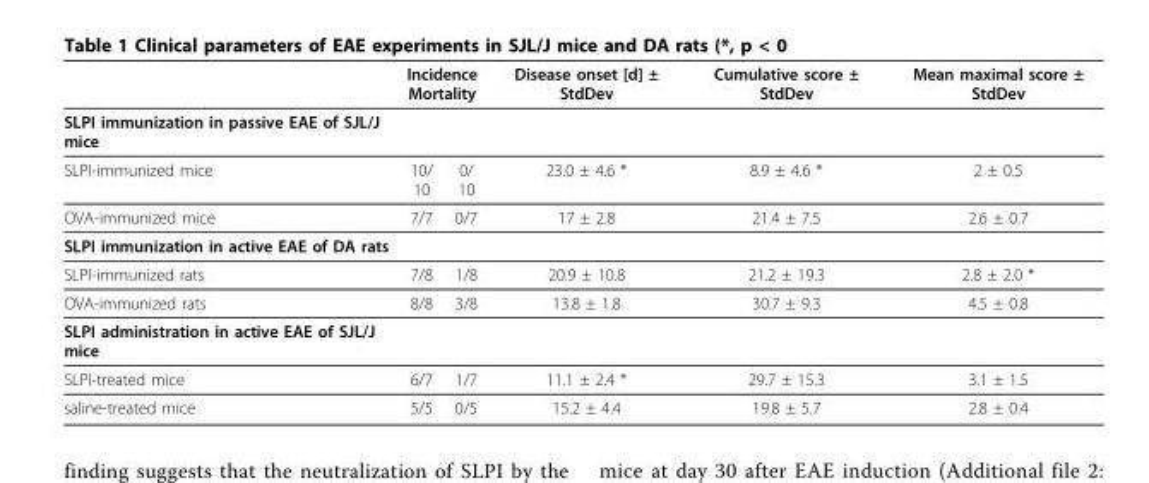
<table><thead><tr><td rowspan="2">SLPI immunization in passive EAE of SJL/J mice</td><td colspan="2">Incidence Mortality</td><td rowspan="2">Disease onset [d] ± StdDev</td><td rowspan="2">Cumulative score ± StdDev</td><td rowspan="2">Mean maximal score ± StdDev</td></tr><tr><td></td><td></td></tr></thead><tbody><tr><td>SLPI-immunized mice</td><td>10/ 10</td><td>0/ 10</td><td>23.0 ± 4.6 *</td><td>8.9 ± 4.6 *</td><td>2 ± 0.5</td></tr><tr><td>OVA-immunized mice</td><td>7/7</td><td>0/7</td><td>17 ± 2.8</td><td>21.4 ± 7.5</td><td>2.6 ± 0.7</td></tr><tr><td colspan="6">SLPI immunization in active EAE of DA rats</td></tr><tr><td>SLPI-immunized rats</td><td>7/8</td><td>1/8</td><td>20.9 ± 10.8</td><td>21.2 ± 19.3</td><td>2.8 ± 2.0 *</td></tr><tr><td>OVA-immunized rats</td><td>8/8</td><td>3/8</td><td>13.8 ± 1.8</td><td>30.7 ± 9.3</td><td>4.5 ± 0.8</td></tr><tr><td colspan="6">SLPI administration in active EAE of SJL/J mice</td></tr><tr><td>SLPI-treated mice</td><td>6/7</td><td>1/7</td><td>11.1 ± 2.4 *</td><td>29.7 ± 15.3</td><td>3.1 ± 1.5</td></tr><tr><td>saline-treated mice</td><td>5/5</td><td>0/5</td><td>15.2 ± 4.4</td><td>19.8 ± 5.7</td><td>2.8 ± 0.4</td></tr></tbody></table>